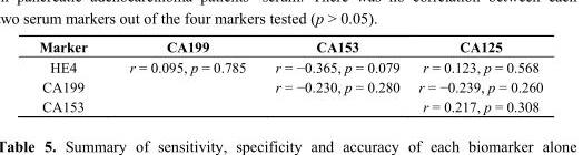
<table><thead><tr><td>Marker</td><td>CA199</td><td>CA153</td><td>CA125</td></tr></thead><tbody><tr><td>HE4</td><td>r = 0.095, p = 0.785</td><td>r = −0.365, p = 0.079</td><td>r = 0.123, p = 0.568</td></tr><tr><td>CA199</td><td></td><td>r = −0.230, p = 0.280</td><td>r = −0.239, p = 0.260</td></tr><tr><td>CA153</td><td></td><td></td><td>r = 0.217, p = 0.308</td></tr></tbody></table>